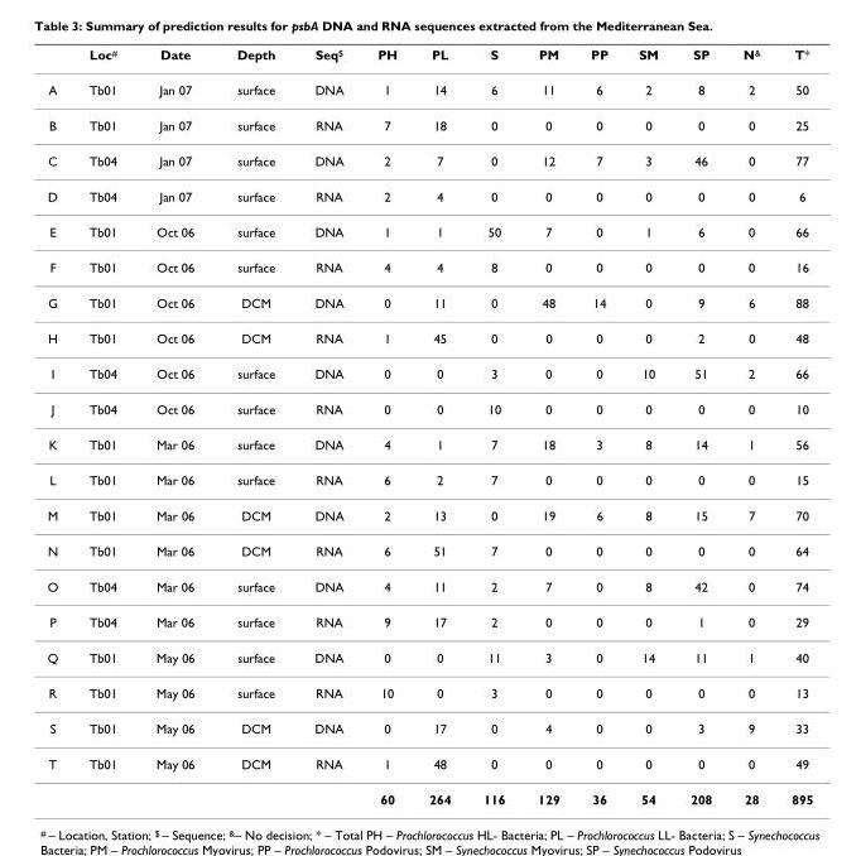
<table><thead><tr><td></td><td>Loc<sup>#</sup></td><td>Date</td><td>Depth</td><td>Seq<sup>$</sup></td><td>PH</td><td>PL</td><td>S</td><td>PM</td><td>PP</td><td>SM</td><td>SP</td><td>N<sup>&amp;</sup></td><td>T*</td></tr></thead><tbody><tr><td>A</td><td>Tb01</td><td>Jan 07</td><td>surface</td><td>DNA</td><td>1</td><td>14</td><td>6</td><td>11</td><td>6</td><td>2</td><td>8</td><td>2</td><td>50</td></tr><tr><td>B</td><td>Tb01</td><td>Jan 07</td><td>surface</td><td>RNA</td><td>7</td><td>18</td><td>0</td><td>0</td><td>0</td><td>0</td><td>0</td><td>0</td><td>25</td></tr><tr><td>C</td><td>Tb04</td><td>Jan 07</td><td>surface</td><td>DNA</td><td>2</td><td>7</td><td>0</td><td>12</td><td>7</td><td>3</td><td>46</td><td>0</td><td>77</td></tr><tr><td>D</td><td>Tb04</td><td>Jan 07</td><td>surface</td><td>RNA</td><td>2</td><td>4</td><td>0</td><td>0</td><td>0</td><td>0</td><td>0</td><td>0</td><td>6</td></tr><tr><td>E</td><td>Tb01</td><td>Oct 06</td><td>surface</td><td>DNA</td><td>1</td><td>1</td><td>50</td><td>7</td><td>0</td><td>1</td><td>6</td><td>0</td><td>66</td></tr><tr><td>F</td><td>Tb01</td><td>Oct 06</td><td>surface</td><td>RNA</td><td>4</td><td>4</td><td>8</td><td>0</td><td>0</td><td>0</td><td>0</td><td>0</td><td>16</td></tr><tr><td>G</td><td>Tb01</td><td>Oct 06</td><td>DCM</td><td>DNA</td><td>0</td><td>11</td><td>0</td><td>48</td><td>14</td><td>0</td><td>9</td><td>6</td><td>88</td></tr><tr><td>H</td><td>Tb01</td><td>Oct 06</td><td>DCM</td><td>RNA</td><td>1</td><td>45</td><td>0</td><td>0</td><td>0</td><td>0</td><td>2</td><td>0</td><td>48</td></tr><tr><td>I</td><td>Tb04</td><td>Oct 06</td><td>surface</td><td>DNA</td><td>0</td><td>0</td><td>3</td><td>0</td><td>0</td><td>10</td><td>51</td><td>2</td><td>66</td></tr><tr><td>J</td><td>Tb04</td><td>Oct 06</td><td>surface</td><td>RNA</td><td>0</td><td>0</td><td>10</td><td>0</td><td>0</td><td>0</td><td>0</td><td>0</td><td>10</td></tr><tr><td>K</td><td>Tb01</td><td>Mar 06</td><td>surface</td><td>DNA</td><td>4</td><td>1</td><td>7</td><td>18</td><td>3</td><td>8</td><td>14</td><td>1</td><td>56</td></tr><tr><td>L</td><td>Tb01</td><td>Mar 06</td><td>surface</td><td>RNA</td><td>6</td><td>2</td><td>7</td><td>0</td><td>0</td><td>0</td><td>0</td><td>0</td><td>15</td></tr><tr><td>M</td><td>Tb01</td><td>Mar 06</td><td>DCM</td><td>DNA</td><td>2</td><td>13</td><td>0</td><td>19</td><td>6</td><td>8</td><td>15</td><td>7</td><td>70</td></tr><tr><td>N</td><td>Tb01</td><td>Mar 06</td><td>DCM</td><td>RNA</td><td>6</td><td>51</td><td>7</td><td>0</td><td>0</td><td>0</td><td>0</td><td>0</td><td>64</td></tr><tr><td>O</td><td>Tb04</td><td>Mar 06</td><td>surface</td><td>DNA</td><td>4</td><td>11</td><td>2</td><td>7</td><td>0</td><td>8</td><td>42</td><td>0</td><td>74</td></tr><tr><td>P</td><td>Tb04</td><td>Mar 06</td><td>surface</td><td>RNA</td><td>9</td><td>17</td><td>2</td><td>0</td><td>0</td><td>0</td><td>1</td><td>0</td><td>29</td></tr><tr><td>Q</td><td>Tb01</td><td>May 06</td><td>surface</td><td>DNA</td><td>0</td><td>0</td><td>11</td><td>3</td><td>0</td><td>14</td><td>11</td><td>1</td><td>40</td></tr><tr><td>R</td><td>Tb01</td><td>May 06</td><td>surface</td><td>RNA</td><td>10</td><td>0</td><td>3</td><td>0</td><td>0</td><td>0</td><td>0</td><td>0</td><td>13</td></tr><tr><td>S</td><td>Tb01</td><td>May 06</td><td>DCM</td><td>DNA</td><td>0</td><td>17</td><td>0</td><td>4</td><td>0</td><td>0</td><td>3</td><td>9</td><td>33</td></tr><tr><td rowspan="2">T</td><td>Tb01</td><td>May 06</td><td>DCM</td><td>RNA</td><td>1</td><td>48</td><td>0</td><td>0</td><td>0</td><td>0</td><td>0</td><td>0</td><td>49</td></tr><tr><td></td><td></td><td></td><td></td><td>60</td><td>264</td><td>116</td><td>129</td><td>36</td><td>54</td><td>208</td><td>28</td><td>895</td></tr></tbody></table>